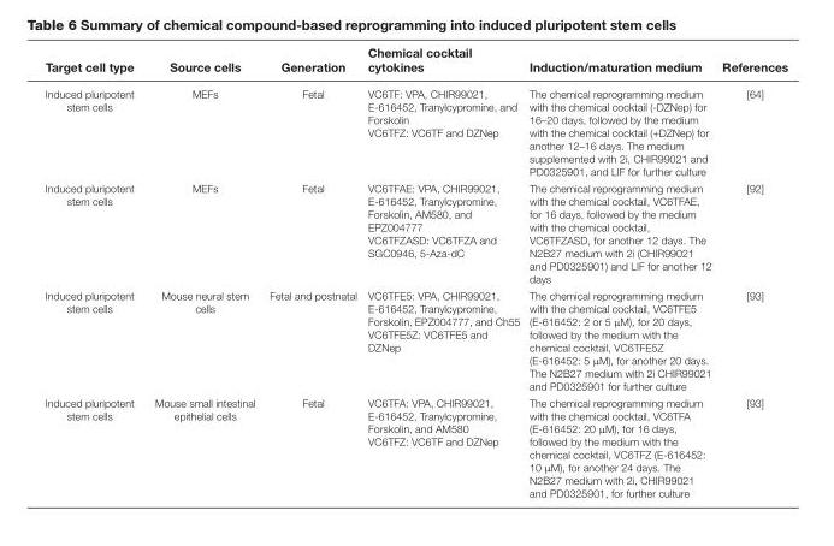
<table><thead><tr><td>Target cell type</td><td>Source cells</td><td>Generation</td><td>Chemical cocktail cytokines</td><td>Induction/maturation medium</td><td>References</td></tr></thead><tbody><tr><td>Induced pluripotent stem cells</td><td>MEFs</td><td>Fetal</td><td>VC6TF: VPA, CHIR99021, E-616452, Tranylcypromine, and Forskolin VC6TFZ: VC6TF and DZNep</td><td>The chemical reprogramming medium with the chemical cocktail (-DZNep) for 16–20 days, followed by the medium with the chemical cocktail (+DZNep) for another 12–16 days. The medium supplemented with 2i, CHIR99021 and PD0325901, and LIF for further culture</td><td>[64]</td></tr><tr><td>Induced pluripotent stem cells</td><td>MEFs</td><td>Fetal</td><td>VC6TFAE: VPA, CHIR99021, E-616452, Tranylcypromine, Forskolin, AM580, and EPZ004777 VC6TFZASD: VC6TFZA and SGC0946, 5-Aza-dC</td><td>The chemical reprogramming medium with the chemical cocktail, VC6TFAE, for 16 days, followed by the medium with the chemical cocktail, VC6TFZASD, for another 12 days. The N2B27 medium with 2i (CHIR99021 and PD0325901) and LIF for another 12 days</td><td>[92]</td></tr><tr><td>Induced pluripotent stem cells</td><td>Mouse neural stem cells</td><td>Fetal and postnatal</td><td>VC6TFE5: VPA, CHIR99021, E-616452, Tranylcypromine, Forskolin, EPZ004777, and Ch55 VC6TFE5Z: VC6TFE5 and DZNep</td><td>The chemical reprogramming medium with the chemical cocktail, VC6TFE5 (E-616452: 2 or 5 μM), for 20 days, followed by the medium with the chemical cocktail, VC6TFE5Z (E-616452: 5 μM), for another 20 days. The N2B27 medium with 2i CHIR99021 and PD0325901 for further culture</td><td>[93]</td></tr><tr><td>Induced pluripotent stem cells</td><td>Mouse small intestinal epithelial cells</td><td>Fetal</td><td>VC6TFA: VPA, CHIR99021, E-616452, Tranylcypromine, Forskolin, and AM580 VC6TFZ: VC6TF and DZNep</td><td>The chemical reprogramming medium with the chemical cocktail, VC6TFA (E-616452: 20 μM), for 16 days, followed by the medium with the chemical cocktail, VC6TFZ (E-616452: 10 μM), for another 24 days. The N2B27 medium with 2i, CHIR99021 and PD0325901, for further culture</td><td>[93]</td></tr></tbody></table>